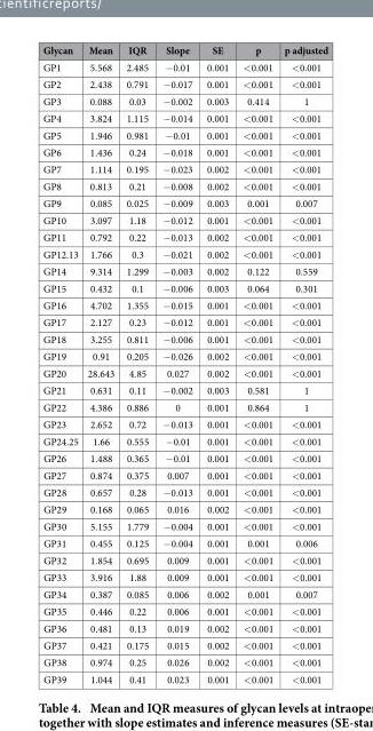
<table><thead><tr><td>Glycan</td><td>Mean</td><td>IQR</td><td>Slope</td><td>SE</td><td>p</td><td>p adjusted</td></tr></thead><tbody><tr><td>GP1</td><td>5.568</td><td>2.485</td><td>− 0.01</td><td>0.001</td><td>&lt; 0.001</td><td>&lt; 0.001</td></tr><tr><td>GP2</td><td>2.438</td><td>0.791</td><td>− 0.017</td><td>0.001</td><td>&lt; 0.001</td><td>&lt; 0.001</td></tr><tr><td>GP3</td><td>0.088</td><td>0.03</td><td>− 0.002</td><td>0.003</td><td>0.414</td><td>1</td></tr><tr><td>GP4</td><td>3.824</td><td>1.115</td><td>− 0.014</td><td>0.001</td><td>&lt; 0.001</td><td>&lt; 0.001</td></tr><tr><td>GP5</td><td>1.946</td><td>0.981</td><td>− 0.01</td><td>0.001</td><td>&lt; 0.001</td><td>&lt; 0.001</td></tr><tr><td>GP6</td><td>1.436</td><td>0.24</td><td>− 0.018</td><td>0.001</td><td>&lt; 0.001</td><td>&lt; 0.001</td></tr><tr><td>GP7</td><td>1.114</td><td>0.195</td><td>− 0.023</td><td>0.002</td><td>&lt; 0.001</td><td>&lt; 0.001</td></tr><tr><td>GP8</td><td>0.813</td><td>0.21</td><td>− 0.008</td><td>0.002</td><td>&lt; 0.001</td><td>&lt; 0.001</td></tr><tr><td>GP9</td><td>0.085</td><td>0.025</td><td>− 0.009</td><td>0.003</td><td>0.001</td><td>0.007</td></tr><tr><td>GP10</td><td>3.097</td><td>1.18</td><td>− 0.012</td><td>0.001</td><td>&lt; 0.001</td><td>&lt; 0.001</td></tr><tr><td>GP11</td><td>0.792</td><td>0.22</td><td>− 0.013</td><td>0.002</td><td>&lt; 0.001</td><td>&lt; 0.001</td></tr><tr><td>GP12.13</td><td>1.766</td><td>0.3</td><td>− 0.021</td><td>0.002</td><td>&lt; 0.001</td><td>&lt; 0.001</td></tr><tr><td>GP14</td><td>9.314</td><td>1.299</td><td>− 0.003</td><td>0.002</td><td>0.122</td><td>0.559</td></tr><tr><td>GP15</td><td>0.432</td><td>0.1</td><td>− 0.006</td><td>0.003</td><td>0.064</td><td>0.301</td></tr><tr><td>GP16</td><td>4.702</td><td>1.355</td><td>− 0.015</td><td>0.001</td><td>&lt; 0.001</td><td>&lt; 0.001</td></tr><tr><td>GP17</td><td>2.127</td><td>0.23</td><td>− 0.012</td><td>0.001</td><td>&lt; 0.001</td><td>&lt; 0.001</td></tr><tr><td>GP18</td><td>3.255</td><td>0.811</td><td>− 0.006</td><td>0.001</td><td>&lt; 0.001</td><td>&lt; 0.001</td></tr><tr><td>GP19</td><td>0.91</td><td>0.205</td><td>− 0.026</td><td>0.002</td><td>&lt; 0.001</td><td>&lt; 0.001</td></tr><tr><td>GP20</td><td>28.643</td><td>4.85</td><td>0.027</td><td>0.002</td><td>&lt; 0.001</td><td>&lt; 0.001</td></tr><tr><td>GP21</td><td>0.631</td><td>0.11</td><td>− 0.002</td><td>0.003</td><td>0.581</td><td>1</td></tr><tr><td>GP22</td><td>4.386</td><td>0.886</td><td>0</td><td>0.001</td><td>0.864</td><td>1</td></tr><tr><td>GP23</td><td>2.652</td><td>0.72</td><td>− 0.013</td><td>0.001</td><td>&lt; 0.001</td><td>&lt; 0.001</td></tr><tr><td>GP24.25</td><td>1.66</td><td>0.555</td><td>− 0.01</td><td>0.001</td><td>&lt; 0.001</td><td>&lt; 0.001</td></tr><tr><td>GP26</td><td>1.488</td><td>0.365</td><td>− 0.01</td><td>0.001</td><td>&lt; 0.001</td><td>&lt; 0.001</td></tr><tr><td>GP27</td><td>0.874</td><td>0.375</td><td>0.007</td><td>0.001</td><td>&lt; 0.001</td><td>&lt; 0.001</td></tr><tr><td>GP28</td><td>0.657</td><td>0.28</td><td>− 0.013</td><td>0.001</td><td>&lt; 0.001</td><td>&lt; 0.001</td></tr><tr><td>GP29</td><td>0.168</td><td>0.065</td><td>0.016</td><td>0.002</td><td>&lt; 0.001</td><td>&lt; 0.001</td></tr><tr><td>GP30</td><td>5.155</td><td>1.779</td><td>− 0.004</td><td>0.001</td><td>&lt; 0.001</td><td>&lt; 0.001</td></tr><tr><td>GP31</td><td>0.455</td><td>0.125</td><td>− 0.004</td><td>0.001</td><td>0.001</td><td>0.006</td></tr><tr><td>GP32</td><td>1.854</td><td>0.695</td><td>0.009</td><td>0.001</td><td>&lt; 0.001</td><td>&lt; 0.001</td></tr><tr><td>GP33</td><td>3.916</td><td>1.88</td><td>0.009</td><td>0.001</td><td>&lt; 0.001</td><td>&lt; 0.001</td></tr><tr><td>GP34</td><td>0.387</td><td>0.085</td><td>0.006</td><td>0.002</td><td>0.001</td><td>0.007</td></tr><tr><td>GP35</td><td>0.446</td><td>0.22</td><td>0.006</td><td>0.001</td><td>&lt; 0.001</td><td>&lt; 0.001</td></tr><tr><td>GP36</td><td>0.481</td><td>0.13</td><td>0.019</td><td>0.002</td><td>&lt; 0.001</td><td>&lt; 0.001</td></tr><tr><td>GP37</td><td>0.421</td><td>0.175</td><td>0.015</td><td>0.002</td><td>&lt; 0.001</td><td>&lt; 0.001</td></tr><tr><td>GP38</td><td>0.974</td><td>0.25</td><td>0.026</td><td>0.002</td><td>&lt; 0.001</td><td>&lt; 0.001</td></tr><tr><td>GP39</td><td>1.044</td><td>0.41</td><td>0.023</td><td>0.001</td><td>&lt; 0.001</td><td>&lt; 0.001</td></tr></tbody></table>